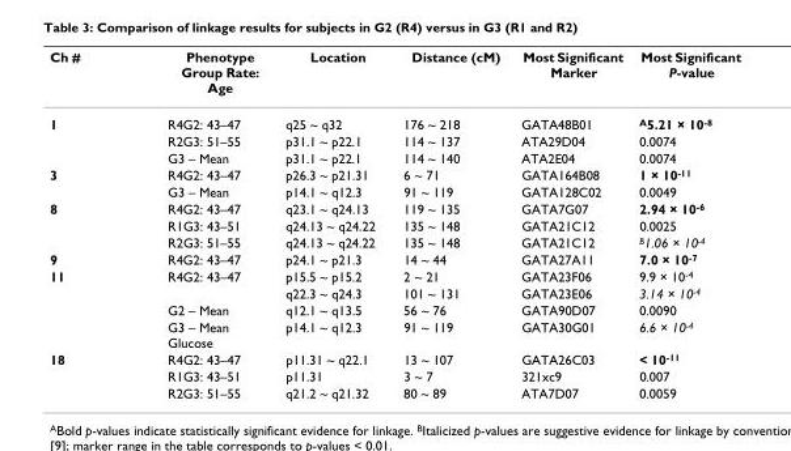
<table><thead><tr><td>Ch #</td><td>Phenotype Group Rate: Age</td><td>Location</td><td>Distance (cM)</td><td>Most Significant Marker</td><td>Most Significant P-value</td></tr></thead><tbody><tr><td rowspan="3">1</td><td>R4G2: 43–47</td><td>q25 ~ q32</td><td>176 ~ 218</td><td>GATA48B01</td><td>A5.21 × 10-8</td></tr><tr><td>R2G3: 51–55</td><td>p31.1 ~ p22.1</td><td>114 ~ 137</td><td>ATA29D04</td><td>0.0074</td></tr><tr><td>G3 – Mean</td><td>p31.1 ~ p22.1</td><td>114 ~ 140</td><td>ATA2E04</td><td>0.0074</td></tr><tr><td rowspan="2">3</td><td>R4G2: 43–47</td><td>p26.3 ~ p21.31</td><td>6 ~ 71</td><td>GATA164B08</td><td>1 × 10-11</td></tr><tr><td>G3 – Mean</td><td>p14.1 ~ q12.3</td><td>91 ~ 119</td><td>GATA128C02</td><td>0.0049</td></tr><tr><td rowspan="3">8</td><td>R4G2: 43–47</td><td>q23.1 ~ q24.13</td><td>119 ~ 135</td><td>GATA7G07</td><td>2.94 × 10-6</td></tr><tr><td>R1G3: 43–51</td><td>q24.13 ~ q24.22</td><td>135 ~ 148</td><td>GATA21C12</td><td>0.0025</td></tr><tr><td>R2G3: 51–55</td><td>q24.13 ~ q24.22</td><td>135 ~ 148</td><td>GATA21C12</td><td>B1.06 × 10-4</td></tr><tr><td>9</td><td>R4G2: 43–47</td><td>p24.1 ~ p21.3</td><td>14 ~ 44</td><td>GATA27A11</td><td>7.0 × 10-7</td></tr><tr><td rowspan="4">11</td><td>R4G2: 43–47</td><td>p15.5 ~ p15.2</td><td>2 ~ 21</td><td>GATA23F06</td><td>9.9 × 10-4</td></tr><tr><td></td><td>q22.3 ~ q24.3</td><td>101 ~ 131</td><td>GATA23E06</td><td>3.14 × 10-4</td></tr><tr><td>G2 – Mean</td><td>q12.1 ~ q13.5</td><td>56 ~ 76</td><td>GATA90D07</td><td>0.0090</td></tr><tr><td>G3 – Mean Glucose</td><td>p14.1 ~ q12.3</td><td>91 ~ 119</td><td>GATA30G01</td><td>6.6 × 10-4</td></tr><tr><td rowspan="3">18</td><td>R4G2: 43–47</td><td>p11.31 ~ q22.1</td><td>13 ~ 107</td><td>GATA26C03</td><td>&lt; 10-11</td></tr><tr><td>R1G3: 43–51</td><td>p11.31</td><td>3 ~ 7</td><td>321xc9</td><td>0.007</td></tr><tr><td>R2G3: 51–55</td><td>q21.2 ~ q21.32</td><td>80 ~ 89</td><td>ATA7D07</td><td>0.0059</td></tr></tbody></table>